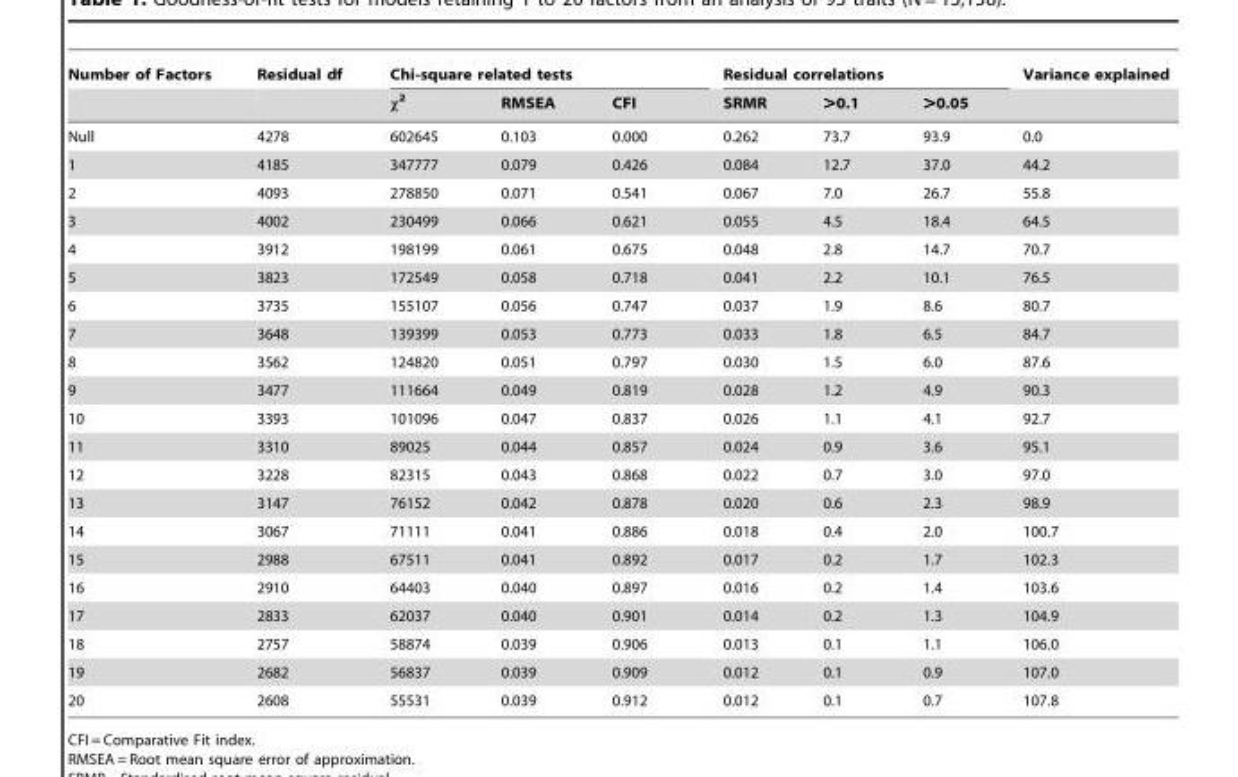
<table><thead><tr><td rowspan="2">Number of Factors</td><td rowspan="2">Residual df</td><td colspan="3">Chi-square related tests</td><td colspan="3">Residual correlations</td><td rowspan="2">Variance explained</td></tr><tr><td>χ<sup>2</sup></td><td>RMSEA</td><td>CFI</td><td>SRMR</td><td>&gt;0.1</td><td>&gt;0.05</td></tr></thead><tbody><tr><td>Null</td><td>4278</td><td>602645</td><td>0.103</td><td>0.000</td><td>0.262</td><td>73.7</td><td>93.9</td><td>0.0</td></tr><tr><td>1</td><td>4185</td><td>347777</td><td>0.079</td><td>0.426</td><td>0.084</td><td>12.7</td><td>37.0</td><td>44.2</td></tr><tr><td>2</td><td>4093</td><td>278850</td><td>0.071</td><td>0.541</td><td>0.067</td><td>7.0</td><td>26.7</td><td>55.8</td></tr><tr><td>3</td><td>4002</td><td>230499</td><td>0.066</td><td>0.621</td><td>0.055</td><td>4.5</td><td>18.4</td><td>64.5</td></tr><tr><td>4</td><td>3912</td><td>198199</td><td>0.061</td><td>0.675</td><td>0.048</td><td>2.8</td><td>14.7</td><td>70.7</td></tr><tr><td>5</td><td>3823</td><td>172549</td><td>0.058</td><td>0.718</td><td>0.041</td><td>2.2</td><td>10.1</td><td>76.5</td></tr><tr><td>6</td><td>3735</td><td>155107</td><td>0.056</td><td>0.747</td><td>0.037</td><td>1.9</td><td>8.6</td><td>80.7</td></tr><tr><td>7</td><td>3648</td><td>139399</td><td>0.053</td><td>0.773</td><td>0.033</td><td>1.8</td><td>6.5</td><td>84.7</td></tr><tr><td>8</td><td>3562</td><td>124820</td><td>0.051</td><td>0.797</td><td>0.030</td><td>1.5</td><td>6.0</td><td>87.6</td></tr><tr><td>9</td><td>3477</td><td>111664</td><td>0.049</td><td>0.819</td><td>0.028</td><td>1.2</td><td>4.9</td><td>90.3</td></tr><tr><td>10</td><td>3393</td><td>101096</td><td>0.047</td><td>0.837</td><td>0.026</td><td>1.1</td><td>4.1</td><td>92.7</td></tr><tr><td>11</td><td>3310</td><td>89025</td><td>0.044</td><td>0.857</td><td>0.024</td><td>0.9</td><td>3.6</td><td>95.1</td></tr><tr><td>12</td><td>3228</td><td>82315</td><td>0.043</td><td>0.868</td><td>0.022</td><td>0.7</td><td>3.0</td><td>97.0</td></tr><tr><td>13</td><td>3147</td><td>76152</td><td>0.042</td><td>0.878</td><td>0.020</td><td>0.6</td><td>2.3</td><td>98.9</td></tr><tr><td>14</td><td>3067</td><td>71111</td><td>0.041</td><td>0.886</td><td>0.018</td><td>0.4</td><td>2.0</td><td>100.7</td></tr><tr><td>15</td><td>2988</td><td>67511</td><td>0.041</td><td>0.892</td><td>0.017</td><td>0.2</td><td>1.7</td><td>102.3</td></tr><tr><td>16</td><td>2910</td><td>64403</td><td>0.040</td><td>0.897</td><td>0.016</td><td>0.2</td><td>1.4</td><td>103.6</td></tr><tr><td>17</td><td>2833</td><td>62037</td><td>0.040</td><td>0.901</td><td>0.014</td><td>0.2</td><td>1.3</td><td>104.9</td></tr><tr><td>18</td><td>2757</td><td>58874</td><td>0.039</td><td>0.906</td><td>0.013</td><td>0.1</td><td>1.1</td><td>106.0</td></tr><tr><td>19</td><td>2682</td><td>56837</td><td>0.039</td><td>0.909</td><td>0.012</td><td>0.1</td><td>0.9</td><td>107.0</td></tr><tr><td>20</td><td>2608</td><td>55531</td><td>0.039</td><td>0.912</td><td>0.012</td><td>0.1</td><td>0.7</td><td>107.8</td></tr></tbody></table>